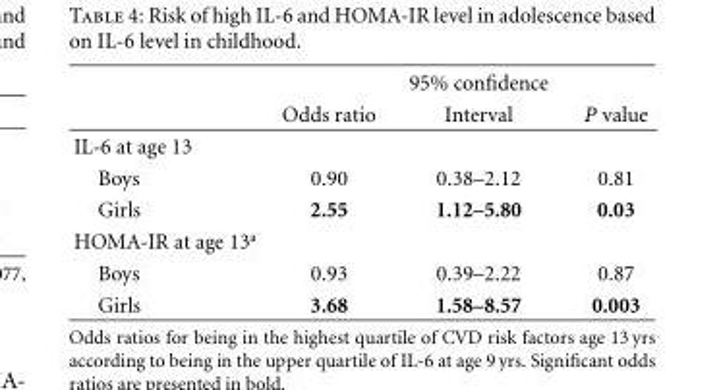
<table><thead><tr><td rowspan="2"></td><td rowspan="2">Odds ratio</td><td rowspan="2">95% confidence Interval</td><td rowspan="2">P value</td></tr><tr></tr></thead><tbody><tr><td colspan="4">IL-6 at age 13</td></tr><tr><td>Boys</td><td>0.90</td><td>0.38–2.12</td><td>0.81</td></tr><tr><td>Girls</td><td>2.55</td><td>1.12–5.80</td><td>0.03</td></tr><tr><td colspan="4">HOMA-IR at age 13<sup>a</sup></td></tr><tr><td>Boys</td><td>0.93</td><td>0.39–2.22</td><td>0.87</td></tr><tr><td>Girls</td><td>3.68</td><td>1.58–8.57</td><td>0.003</td></tr></tbody></table>